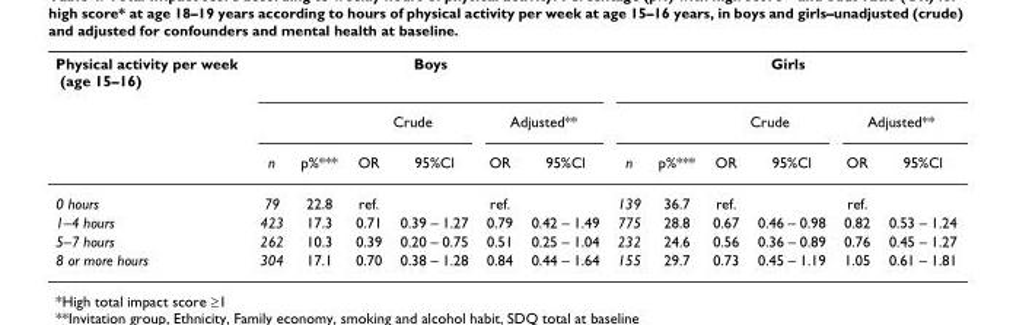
<table><thead><tr><td rowspan="3">Physical activity per week (age 15–16)</td><td colspan="6">Boys</td><td colspan="6">Girls</td></tr><tr><td rowspan="2">n</td><td rowspan="2">p%***</td><td colspan="2">Crude</td><td colspan="2">Adjusted**</td><td rowspan="2">n</td><td rowspan="2">p%***</td><td colspan="2">Crude</td><td colspan="2">Adjusted**</td></tr><tr><td>OR</td><td>95%Cl</td><td>OR</td><td>95%Cl</td><td>OR</td><td>95%Cl</td><td>OR</td><td>95%Cl</td></tr></thead><tbody><tr><td>0 hours</td><td>79</td><td>22.8</td><td>ref.</td><td></td><td>ref.</td><td></td><td>139</td><td>36.7</td><td>ref.</td><td></td><td>ref.</td><td></td></tr><tr><td>1–4 hours</td><td>423</td><td>17.3</td><td>0.71</td><td>0.39 – 1.27</td><td>0.79</td><td>0.42 – 1.49</td><td>775</td><td>28.8</td><td>0.67</td><td>0.46 – 0.98</td><td>0.82</td><td>0.53 – 1.24</td></tr><tr><td>5–7 hours</td><td>262</td><td>10.3</td><td>0.39</td><td>0.20 – 0.75</td><td>0.51</td><td>0.25 – 1.04</td><td>232</td><td>24.6</td><td>0.56</td><td>0.36 – 0.89</td><td>0.76</td><td>0.45 – 1.27</td></tr><tr><td>8 or more hours</td><td>304</td><td>17.1</td><td>0.70</td><td>0.38 – 1.28</td><td>0.84</td><td>0.44 – 1.64</td><td>155</td><td>29.7</td><td>0.73</td><td>0.45 – 1.19</td><td>1.05</td><td>0.61 – 1.81</td></tr></tbody></table>